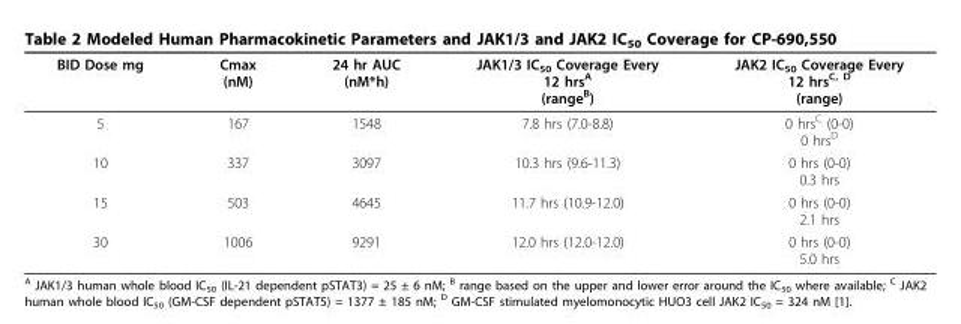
<table><thead><tr><td>BID Dose mg</td><td>Cmax (nM)</td><td>24 hr AUC (nM*h)</td><td>JAK1/3 IC<sub>50</sub> Coverage Every 12 hrs<sup>A</sup> (range<sup>B</sup>)</td><td>JAK2 IC<sub>50</sub> Coverage Every 12 hrs<sup>C, D</sup> (range)</td></tr></thead><tbody><tr><td>5</td><td>167</td><td>1548</td><td>7.8 hrs (7.0-8.8)</td><td>0 hrs<sup>C</sup> (0-0) 0 hrs<sup>D</sup></td></tr><tr><td>10</td><td>337</td><td>3097</td><td>10.3 hrs (9.6-11.3)</td><td>0 hrs (0-0) 0.3 hrs</td></tr><tr><td>15</td><td>503</td><td>4645</td><td>11.7 hrs (10.9-12.0)</td><td>0 hrs (0-0) 2.1 hrs</td></tr><tr><td>30</td><td>1006</td><td>9291</td><td>12.0 hrs (12.0-12.0)</td><td>0 hrs (0-0) 5.0 hrs</td></tr></tbody></table>